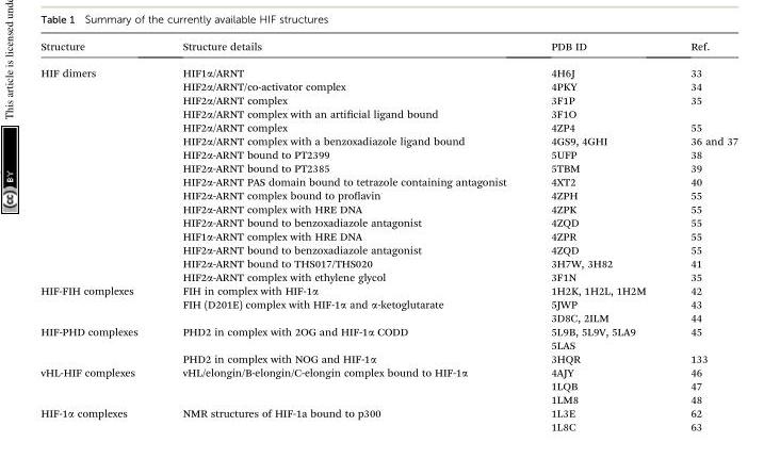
<table><thead><tr><td>Structure</td><td>Structure details</td><td>PDB ID</td><td>Ref.</td></tr></thead><tbody><tr><td rowspan="16">HIF dimers</td><td>HIF1α/ARNT</td><td>4H6J</td><td>33</td></tr><tr><td>HIF2α/ARNT/co-activator complex</td><td>4PKY</td><td>34</td></tr><tr><td>HIF2α/ARNT complex</td><td>3F1P</td><td>35</td></tr><tr><td>HIF2a/ARNT complex with an articial ligand bound</td><td>3F1O</td><td></td></tr><tr><td>HIF2α/ARNT complex</td><td>4ZP4</td><td>55</td></tr><tr><td>HIF2α/ARNT complex with a benzoxadiazole ligand bound</td><td>4GS9, 4GHI</td><td>36 and 37</td></tr><tr><td>HIF2α-ARNT bound to PT2399</td><td>5UFP</td><td>38</td></tr><tr><td>HIF2α-ARNT bound to PT2385</td><td>5TBM</td><td>39</td></tr><tr><td>HIF2α-ARNT PAS domain bound to tetrazole containing antagonist</td><td>4XT2</td><td>40</td></tr><tr><td>HIF2a-ARNT complex bound to proavin</td><td>4ZPH</td><td>55</td></tr><tr><td>HIF2α-ARNT complex with HRE DNA</td><td>4ZPK</td><td>55</td></tr><tr><td>HIF2α-ARNT bound to benzoxadiazole antagonist</td><td>4ZQD</td><td>55</td></tr><tr><td>HIF1α-ARNT complex with HRE DNA</td><td>4ZPR</td><td>55</td></tr><tr><td>HIF2α-ARNT bound to benzoxadiazole antagonist</td><td>4ZQD</td><td>55</td></tr><tr><td>HIF2α-ARNT bound to THS017/THS020</td><td>3H7W, 3H82</td><td>41</td></tr><tr><td>HIF2α-ARNT complex with ethylene glycol</td><td>3F1N</td><td>35</td></tr><tr><td rowspan="3">HIF-FIH complexes</td><td>FIH in complex with HIF-1α</td><td>1H2K, 1H2L, 1H2M</td><td>42</td></tr><tr><td rowspan="2">FIH (D201E) complex with HIF-1α and α-ketoglutarate</td><td>5JWP</td><td>43</td></tr><tr><td>3D8C, 2ILM</td><td>44</td></tr><tr><td rowspan="3">HIF-PHD complexes</td><td rowspan="2">PHD2 in complex with 2OG and HIF-1α CODD</td><td>5L9B, 5L9V, 5LA9</td><td rowspan="2">45</td></tr><tr><td>5LAS</td></tr><tr><td>PHD2 in complex with NOG and HIF-1α</td><td>3HQR</td><td>133</td></tr><tr><td rowspan="3">vHL-HIF complexes</td><td rowspan="3">vHL/elongin/B-elongin/C-elongin complex bound to HIF-1α</td><td>4AJY</td><td>46</td></tr><tr><td>1LQB</td><td>47</td></tr><tr><td>1LM8</td><td>48</td></tr><tr><td rowspan="2">HIF-1α complexes</td><td rowspan="2">NMR structures of HIF-1a bound to p300</td><td>1L3E</td><td>62</td></tr><tr><td>1L8C</td><td>63</td></tr></tbody></table>